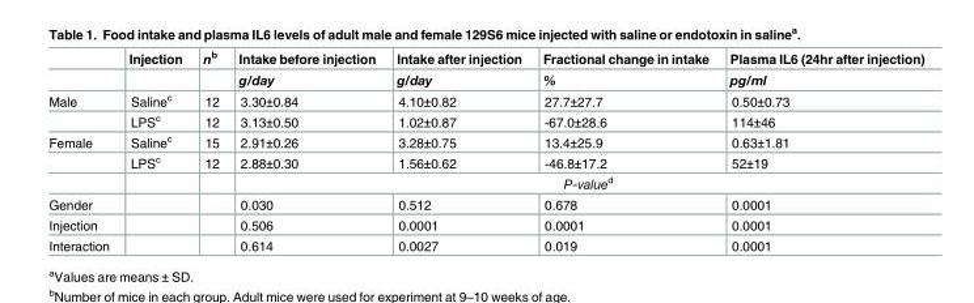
<table><thead><tr><td rowspan="2"></td><td rowspan="2">Injection</td><td rowspan="2">n<sup>b</sup></td><td rowspan="2">Intake before injection g/day</td><td rowspan="2">Intake after injection g/day</td><td rowspan="2">Fractional change in intake %</td><td rowspan="2">Plasma IL6 (24hr after injection) pg/ml</td></tr><tr></tr></thead><tbody><tr><td rowspan="2">Male</td><td>Saline<sup>c</sup></td><td>12</td><td>3.30±0.84</td><td>4.10±0.82</td><td>27.7±27.7</td><td>0.50±0.73</td></tr><tr><td>LPS<sup>c</sup></td><td>12</td><td>3.13±0.50</td><td>1.02±0.87</td><td>-67.0±28.6</td><td>114±46</td></tr><tr><td rowspan="3">Female</td><td>Saline<sup>c</sup></td><td>15</td><td>2.91±0.26</td><td>3.28±0.75</td><td>13.4±25.9</td><td>0.63±1.81</td></tr><tr><td>LPS<sup>c</sup></td><td>12</td><td>2.88±0.30</td><td>1.56±0.62</td><td>-46.8±17.2</td><td>52±19</td></tr><tr><td></td><td></td><td colspan="4">P-value<sup>d</sup></td></tr><tr><td>Gender</td><td></td><td></td><td>0.030</td><td>0.512</td><td>0.678</td><td>0.0001</td></tr><tr><td>Injection</td><td></td><td></td><td>0.506</td><td>0.0001</td><td>0.0001</td><td>0.0001</td></tr><tr><td>Interaction</td><td></td><td></td><td>0.614</td><td>0.0027</td><td>0.019</td><td>0.0001</td></tr></tbody></table>